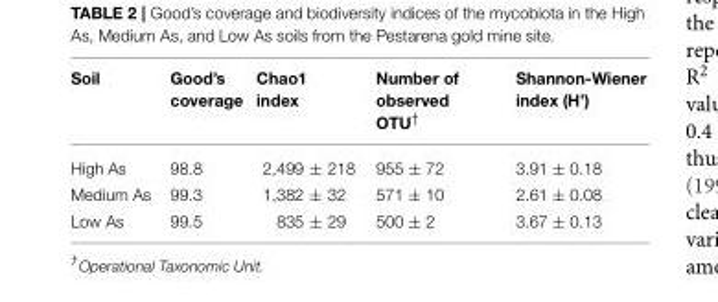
<table><thead><tr><td>Soil</td><td>Good’s coverage</td><td>Chao1 index</td><td>Number of observed OTU<sup>†</sup></td><td>Shannon-Wiener index (H’)</td></tr></thead><tbody><tr><td>High As</td><td>98.8</td><td>2,499 ± 218</td><td>955 ± 72</td><td>3.91 ± 0.18</td></tr><tr><td>Medium As</td><td>99.3</td><td>1,382 ± 32</td><td>571 ± 10</td><td>2.61 ± 0.08</td></tr><tr><td>Low As</td><td>99.5</td><td>835 ± 29</td><td>500 ± 2</td><td>3.67 ± 0.13</td></tr></tbody></table>